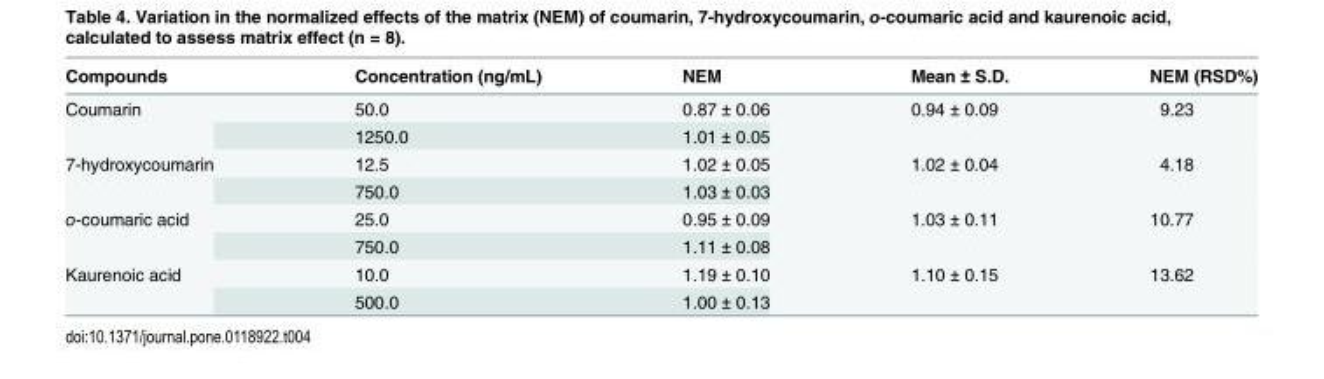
<table><thead><tr><td>Compounds</td><td>Concentration (ng/mL)</td><td>NEM</td><td>Mean ± S.D.</td><td>NEM (RSD%)</td></tr></thead><tbody><tr><td rowspan="2">Coumarin</td><td>50.0</td><td>0.87 ± 0.06</td><td rowspan="2">0.94 ± 0.09</td><td rowspan="2">9.23</td></tr><tr><td>1250.0</td><td>1.01 ± 0.05</td></tr><tr><td rowspan="2">7-hydroxycoumarin</td><td>12.5</td><td>1.02 ± 0.05</td><td rowspan="2">1.02 ± 0.04</td><td rowspan="2">4.18</td></tr><tr><td>750.0</td><td>1.03 ± 0.03</td></tr><tr><td rowspan="2">o-coumaric acid</td><td>25.0</td><td>0.95 ± 0.09</td><td rowspan="2">1.03 ± 0.11</td><td rowspan="2">10.77</td></tr><tr><td>750.0</td><td>1.11 ± 0.08</td></tr><tr><td rowspan="2">Kaurenoic acid</td><td>10.0</td><td>1.19 ± 0.10</td><td rowspan="2">1.10 ± 0.15</td><td rowspan="2">13.62</td></tr><tr><td>500.0</td><td>1.00 ± 0.13</td></tr></tbody></table>